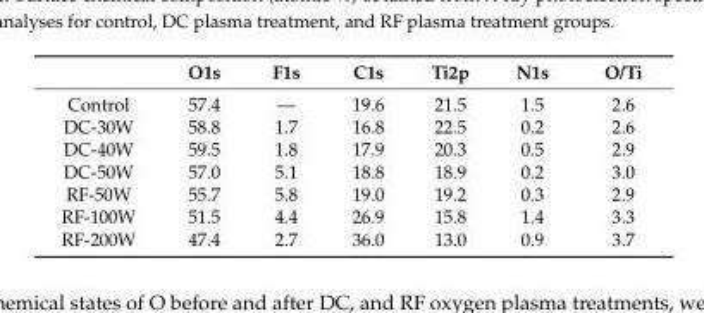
<table><thead><tr><td></td><td>O1s</td><td>F1s</td><td>C1s</td><td>Ti2p</td><td>N1s</td><td>O/Ti</td></tr></thead><tbody><tr><td>Control</td><td>57.4</td><td>—</td><td>19.6</td><td>21.5</td><td>1.5</td><td>2.6</td></tr><tr><td>DC-30W</td><td>58.8</td><td>1.7</td><td>16.8</td><td>22.5</td><td>0.2</td><td>2.6</td></tr><tr><td>DC-40W</td><td>59.5</td><td>1.8</td><td>17.9</td><td>20.3</td><td>0.5</td><td>2.9</td></tr><tr><td>DC-50W</td><td>57.0</td><td>5.1</td><td>18.8</td><td>18.9</td><td>0.2</td><td>3.0</td></tr><tr><td>RF-50W</td><td>55.7</td><td>5.8</td><td>19.0</td><td>19.2</td><td>0.3</td><td>2.9</td></tr><tr><td>RF-100W</td><td>51.5</td><td>4.4</td><td>26.9</td><td>15.8</td><td>1.4</td><td>3.3</td></tr><tr><td>RF-200W</td><td>47.4</td><td>2.7</td><td>36.0</td><td>13.0</td><td>0.9</td><td>3.7</td></tr></tbody></table>